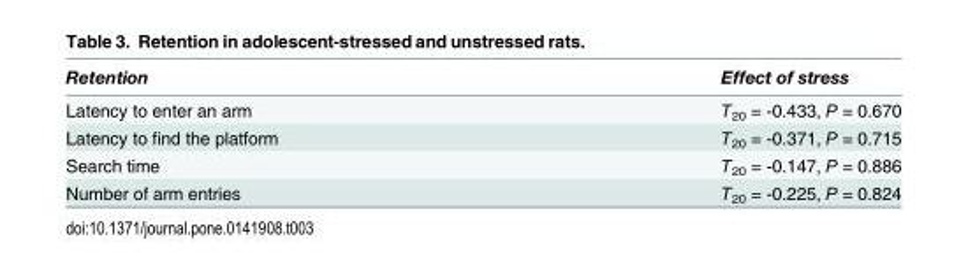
<table><thead><tr><td>Retention</td><td>Effect of stress</td></tr></thead><tbody><tr><td>Latency to enter an arm</td><td>T<sub>20</sub> = -0.433, P = 0.670</td></tr><tr><td>Latency to find the platform</td><td>T<sub>20</sub> = -0.371, P = 0.715</td></tr><tr><td>Search time</td><td>T<sub>20</sub> = -0.147, P = 0.886</td></tr><tr><td>Number of arm entries</td><td>T<sub>20</sub> = -0.225, P = 0.824</td></tr></tbody></table>